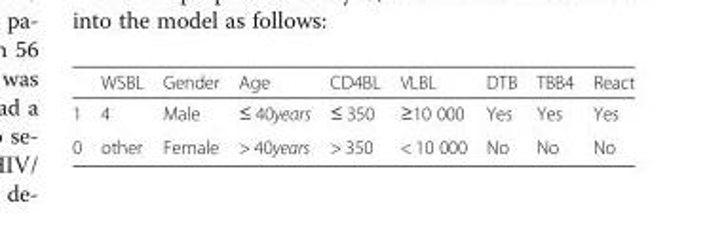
<table><thead><tr><td></td><td>WSBL</td><td>Gender</td><td>Age</td><td>CD4BL</td><td>VLBL</td><td>DTB</td><td>TBB4</td><td>React</td></tr></thead><tbody><tr><td>1</td><td>4</td><td>Male</td><td>≤ 40years</td><td>≤ 350</td><td>≥10 000</td><td>Yes</td><td>Yes</td><td>Yes</td></tr><tr><td>0</td><td>other</td><td>Female</td><td>&gt; 40years</td><td>&gt; 350</td><td>&lt; 10 000</td><td>No</td><td>No</td><td>No</td></tr></tbody></table>